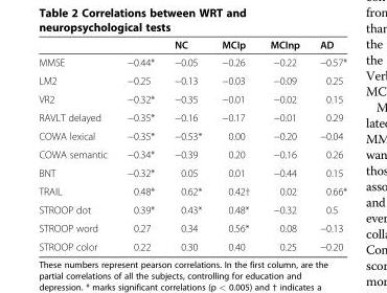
<table><thead><tr><td></td><td></td><td>NC</td><td>MCIp</td><td>MCInp</td><td>AD</td></tr></thead><tbody><tr><td>MMSE</td><td>−0.44*</td><td>−0.05</td><td>−0.26</td><td>−0.22</td><td>−0.57*</td></tr><tr><td>LM2</td><td>−0.25</td><td>−0.13</td><td>−0.03</td><td>−0.09</td><td>0.25</td></tr><tr><td>VR2</td><td>−0.32*</td><td>−0.35</td><td>−0.01</td><td>−0.02</td><td>0.15</td></tr><tr><td>RAVLT delayed</td><td>−0.35*</td><td>−0.16</td><td>−0.17</td><td>−0.01</td><td>0.29</td></tr><tr><td>COWA lexical</td><td>−0.35*</td><td>−0.53*</td><td>0.00</td><td>−0.20</td><td>−0.04</td></tr><tr><td>COWA semantic</td><td>−0.34*</td><td>−0.39</td><td>0.20</td><td>−0.16</td><td>0.26</td></tr><tr><td>BNT</td><td>−0.32*</td><td>0.05</td><td>0.01</td><td>−0.44</td><td>0.15</td></tr><tr><td>TRAIL</td><td>0.48*</td><td>0.62*</td><td>0.42†</td><td>0.02</td><td>0.66*</td></tr><tr><td>STROOP dot</td><td>0.39*</td><td>0.43*</td><td>0.48*</td><td>−0.32</td><td>0.5</td></tr><tr><td>STROOP word</td><td>0.27</td><td>0.34</td><td>0.56*</td><td>0.08</td><td>−0.13</td></tr><tr><td>STROOP color</td><td>0.22</td><td>0.30</td><td>0.40</td><td>0.25</td><td>−0.20</td></tr></tbody></table>